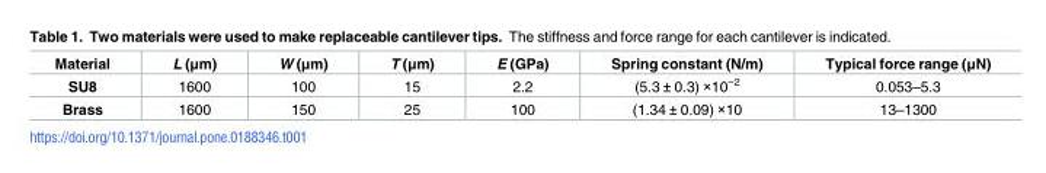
<table><thead><tr><td>Material</td><td>L (μm)</td><td>W (μm)</td><td>T (μm)</td><td>E (GPa)</td><td>Spring constant (N/m)</td><td>Typical force range (μN)</td></tr></thead><tbody><tr><td>SU8</td><td>1600</td><td>100</td><td>15</td><td>2.2</td><td>(5.3 ± 0.3) ×10<sup>−2</sup></td><td>0.053–5.3</td></tr><tr><td>Brass</td><td>1600</td><td>150</td><td>25</td><td>100</td><td>(1.34 ± 0.09) ×10</td><td>13–1300</td></tr></tbody></table>